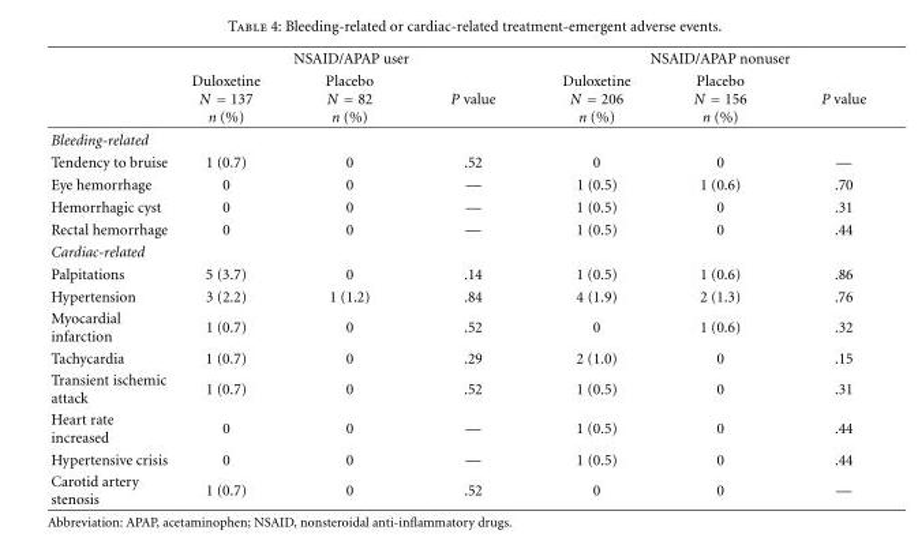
<table><thead><tr><td rowspan="2"></td><td colspan="3">NSAID/APAP user</td><td colspan="3">NSAID/APAP nonuser</td></tr><tr><td>Duloxetine N = 137 n (%)</td><td>Placebo N = 82 n (%)</td><td>P value</td><td>Duloxetine N = 206 n (%)</td><td>Placebo N = 156 n (%)</td><td>P value</td></tr></thead><tbody><tr><td colspan="7">Bleeding-related</td></tr><tr><td>Tendency to bruise</td><td>1 (0.7)</td><td>0</td><td>.52</td><td>0</td><td>0</td><td>—</td></tr><tr><td>Eye hemorrhage</td><td>0</td><td>0</td><td>—</td><td>1 (0.5)</td><td>1 (0.6)</td><td>.70</td></tr><tr><td>Hemorrhagic cyst</td><td>0</td><td>0</td><td>—</td><td>1 (0.5)</td><td>0</td><td>.31</td></tr><tr><td>Rectal hemorrhage</td><td>0</td><td>0</td><td>—</td><td>1 (0.5)</td><td>0</td><td>.44</td></tr><tr><td colspan="7">Cardiac-related</td></tr><tr><td>Palpitations</td><td>5 (3.7)</td><td>0</td><td>.14</td><td>1 (0.5)</td><td>1 (0.6)</td><td>.86</td></tr><tr><td>Hypertension</td><td>3 (2.2)</td><td>1 (1.2)</td><td>.84</td><td>4 (1.9)</td><td>2 (1.3)</td><td>.76</td></tr><tr><td>Myocardial infarction</td><td>1 (0.7)</td><td>0</td><td>.52</td><td>0</td><td>1 (0.6)</td><td>.32</td></tr><tr><td>Tachycardia</td><td>1 (0.7)</td><td>0</td><td>.29</td><td>2 (1.0)</td><td>0</td><td>.15</td></tr><tr><td>Transient ischemic attack</td><td>1 (0.7)</td><td>0</td><td>.52</td><td>1 (0.5)</td><td>0</td><td>.31</td></tr><tr><td>Heart rate increased</td><td>0</td><td>0</td><td>—</td><td>1 (0.5)</td><td>0</td><td>.44</td></tr><tr><td>Hypertensive crisis</td><td>0</td><td>0</td><td>—</td><td>1 (0.5)</td><td>0</td><td>.44</td></tr><tr><td>Carotid artery stenosis</td><td>1 (0.7)</td><td>0</td><td>.52</td><td>0</td><td>0</td><td>—</td></tr></tbody></table>